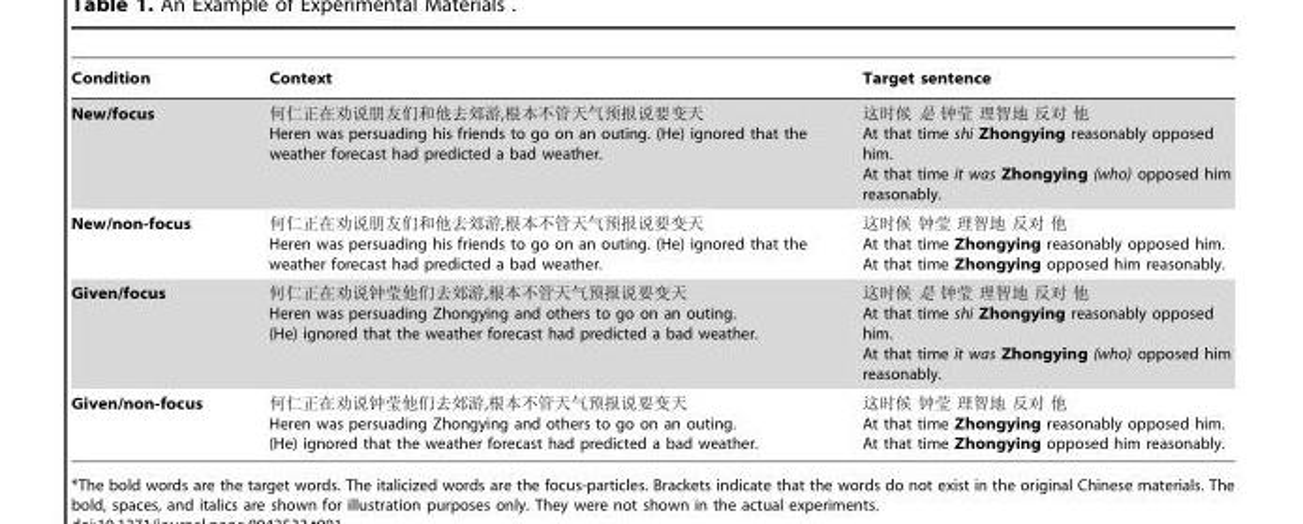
<table><thead><tr><td>Condition</td><td>Context</td><td>Target sentence</td></tr></thead><tbody><tr><td>New/focus</td><td>何仁正在劝说朋友们和他去郊游,根本不管天气预报说要变天 Heren was persuading his friends to go on an outing. (He) ignored that the weather forecast had predicted a bad weather.</td><td>这时候 是 钟莹 理智地 反对 他 At that time shi Zhongying reasonably opposed him. At that time it was Zhongying (who) opposed him reasonably.</td></tr><tr><td>New/non-focus</td><td>何仁正在劝说朋友们和他去郊游,根本不管天气预报说要变天 Heren was persuading his friends to go on an outing. (He) ignored that the weather forecast had predicted a bad weather.</td><td>这时候 钟莹 理智地 反对 他 At that time Zhongying reasonably opposed him. At that time Zhongying opposed him reasonably.</td></tr><tr><td>Given/focus</td><td>何仁正在劝说钟莹他们去郊游,根本不管天气预报说要变天 Heren was persuading Zhongying and others to go on an outing. (He) ignored that the weather forecast had predicted a bad weather.</td><td>这时候 是 钟莹 理智地 反对 他 At that time shi Zhongying reasonably opposed him. At that time it was Zhongying (who) opposed him reasonably.</td></tr><tr><td>Given/non-focus</td><td>何仁正在劝说钟莹他们去郊游,根本不管天气预报说要变天 Heren was persuading Zhongying and others to go on an outing. (He) ignored that the weather forecast had predicted a bad weather.</td><td>这时候 钟莹 理智地 反对 他 At that time Zhongying reasonably opposed him. At that time Zhongying opposed him reasonably.</td></tr></tbody></table>